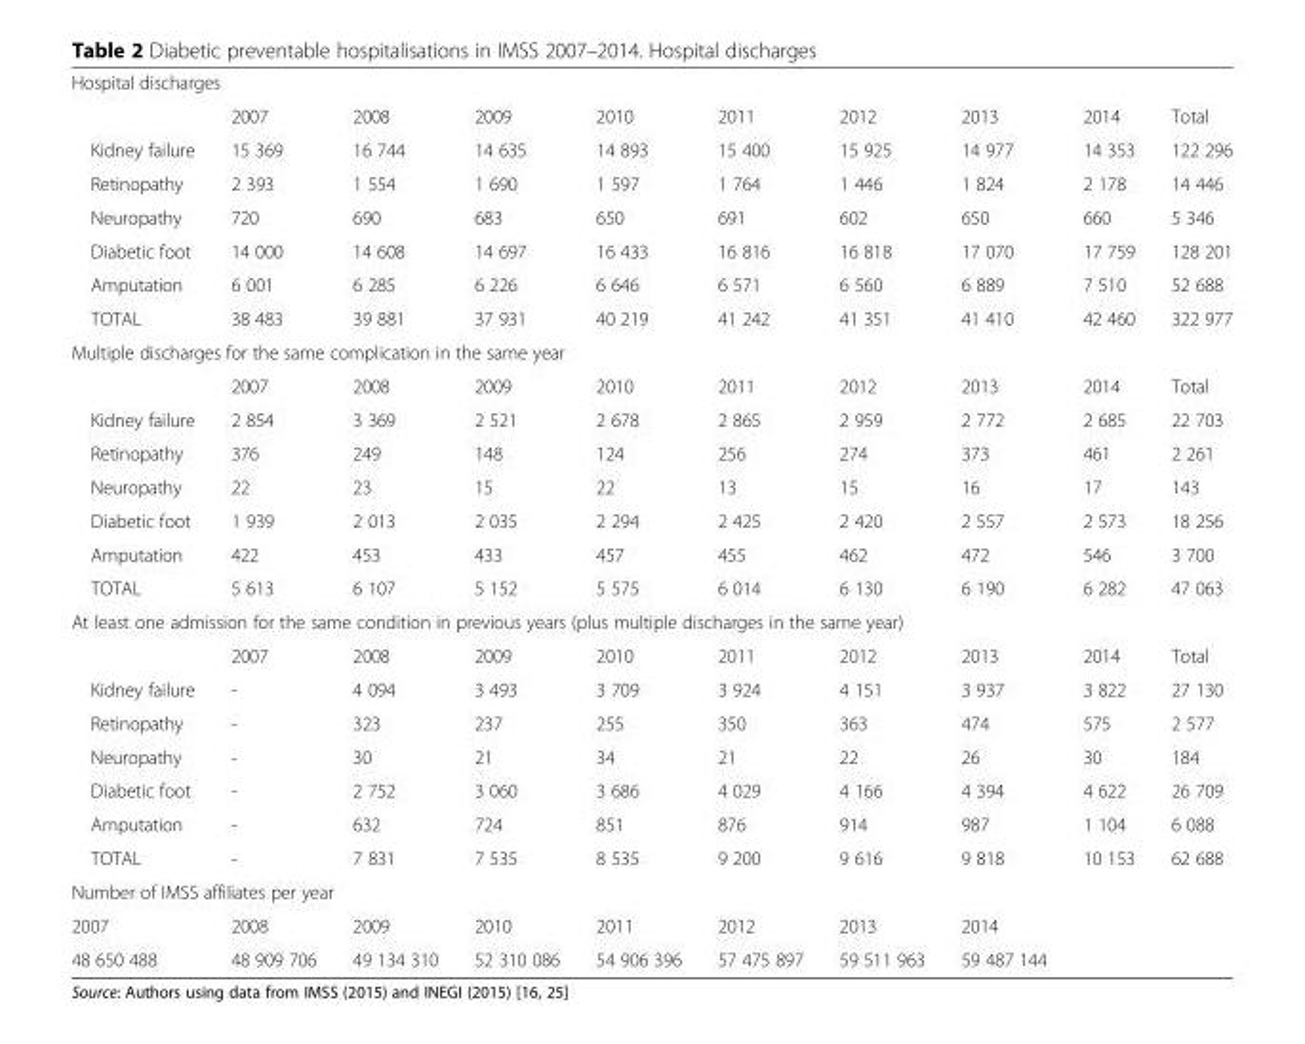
<table><tbody><tr><td colspan="10">Hospital discharges</td></tr><tr><td></td><td>2007</td><td>2008</td><td>2009</td><td>2010</td><td>2011</td><td>2012</td><td>2013</td><td>2014</td><td>Total</td></tr><tr><td>Kidney failure</td><td>15 369</td><td>16 744</td><td>14 635</td><td>14 893</td><td>15 400</td><td>15 925</td><td>14 977</td><td>14 353</td><td>122 296</td></tr><tr><td>Retinopathy</td><td>2 393</td><td>1 554</td><td>1 690</td><td>1 597</td><td>1 764</td><td>1 446</td><td>1 824</td><td>2 178</td><td>14 446</td></tr><tr><td>Neuropathy</td><td>720</td><td>690</td><td>683</td><td>650</td><td>691</td><td>602</td><td>650</td><td>660</td><td>5 346</td></tr><tr><td>Diabetic foot</td><td>14 000</td><td>14 608</td><td>14 697</td><td>16 433</td><td>16 816</td><td>16 818</td><td>17 070</td><td>17 759</td><td>128 201</td></tr><tr><td>Amputation</td><td>6 001</td><td>6 285</td><td>6 226</td><td>6 646</td><td>6 571</td><td>6 560</td><td>6 889</td><td>7 510</td><td>52 688</td></tr><tr><td>TOTAL</td><td>38 483</td><td>39 881</td><td>37 931</td><td>40 219</td><td>41 242</td><td>41 351</td><td>41 410</td><td>42 460</td><td>322 977</td></tr><tr><td colspan="10">Multiple discharges for the same complication in the same year</td></tr><tr><td></td><td>2007</td><td>2008</td><td>2009</td><td>2010</td><td>2011</td><td>2012</td><td>2013</td><td>2014</td><td>Total</td></tr><tr><td>Kidney failure</td><td>2 854</td><td>3 369</td><td>2 521</td><td>2 678</td><td>2 865</td><td>2 959</td><td>2 772</td><td>2 685</td><td>22 703</td></tr><tr><td>Retinopathy</td><td>376</td><td>249</td><td>148</td><td>124</td><td>256</td><td>274</td><td>373</td><td>461</td><td>2 261</td></tr><tr><td>Neuropathy</td><td>22</td><td>23</td><td>15</td><td>22</td><td>13</td><td>15</td><td>16</td><td>17</td><td>143</td></tr><tr><td>Diabetic foot</td><td>1 939</td><td>2 013</td><td>2 035</td><td>2 294</td><td>2 425</td><td>2 420</td><td>2 557</td><td>2 573</td><td>18 256</td></tr><tr><td>Amputation</td><td>422</td><td>453</td><td>433</td><td>457</td><td>455</td><td>462</td><td>472</td><td>546</td><td>3 700</td></tr><tr><td>TOTAL</td><td>5 613</td><td>6 107</td><td>5 152</td><td>5 575</td><td>6 014</td><td>6 130</td><td>6 190</td><td>6 282</td><td>47 063</td></tr><tr><td colspan="10">At least one admission for the same condition in previous years (plus multiple discharges in the same year)</td></tr><tr><td></td><td>2007</td><td>2008</td><td>2009</td><td>2010</td><td>2011</td><td>2012</td><td>2013</td><td>2014</td><td>Total</td></tr><tr><td>Kidney failure</td><td>-</td><td>4 094</td><td>3 493</td><td>3 709</td><td>3 924</td><td>4 151</td><td>3 937</td><td>3 822</td><td>27 130</td></tr><tr><td>Retinopathy</td><td>-</td><td>323</td><td>237</td><td>255</td><td>350</td><td>363</td><td>474</td><td>575</td><td>2 577</td></tr><tr><td>Neuropathy</td><td>-</td><td>30</td><td>21</td><td>34</td><td>21</td><td>22</td><td>26</td><td>30</td><td>184</td></tr><tr><td>Diabetic foot</td><td>-</td><td>2 752</td><td>3 060</td><td>3 686</td><td>4 029</td><td>4 166</td><td>4 394</td><td>4 622</td><td>26 709</td></tr><tr><td>Amputation</td><td>-</td><td>632</td><td>724</td><td>851</td><td>876</td><td>914</td><td>987</td><td>1 104</td><td>6 088</td></tr><tr><td>TOTAL</td><td>-</td><td>7 831</td><td>7 535</td><td>8 535</td><td>9 200</td><td>9 616</td><td>9 818</td><td>10 153</td><td>62 688</td></tr><tr><td colspan="10">Number of IMSS affiliates per year</td></tr><tr><td>2007</td><td>2008</td><td>2009</td><td>2010</td><td>2011</td><td>2012</td><td>2013</td><td>2014</td><td></td><td></td></tr><tr><td>48 650 488</td><td>48 909 706</td><td>49 134 310</td><td>52 310 086</td><td>54 906 396</td><td>57 475 897</td><td>59 511 963</td><td>59 487 144</td><td></td><td></td></tr></tbody></table>